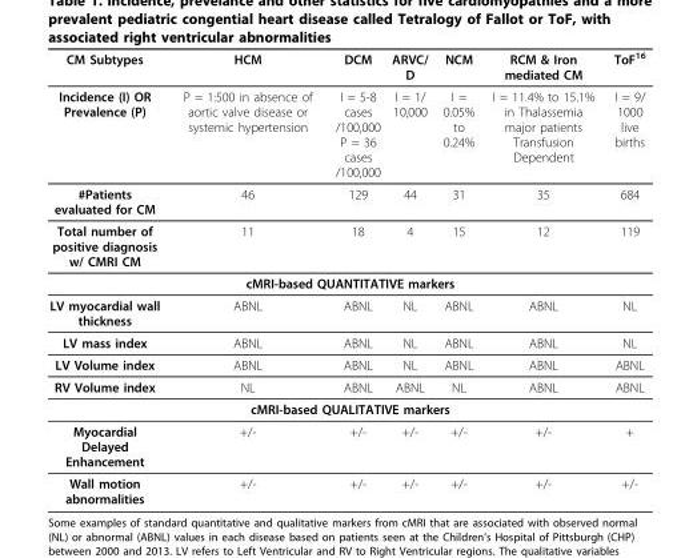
<table><thead><tr><td>CM Subtypes</td><td>HCM</td><td>DCM</td><td>ARVC/ D</td><td>NCM</td><td>RCM &amp; Iron mediated CM</td><td>ToF<sup>16</sup></td></tr></thead><tbody><tr><td>Incidence (I) OR Prevalence (P)</td><td>P = 1:500 in absence of aortic valve disease or systemic hypertension</td><td>I = 5-8 cases /100,000 P = 36 cases /100,000</td><td>I = 1/ 10,000</td><td>I = 0.05% to 0.24%</td><td>I = 11.4% to 15.1% in Thalassemia major patients Transfusion Dependent</td><td>I = 9/ 1000 live births</td></tr><tr><td>#Patients evaluated for CM</td><td>46</td><td>129</td><td>44</td><td>31</td><td>35</td><td>684</td></tr><tr><td>Total number of positive diagnosis w/ CMRI CM</td><td>11</td><td>18</td><td>4</td><td>15</td><td>12</td><td>119</td></tr><tr><td colspan="7">cMRI-based QUANTITATIVE markers</td></tr><tr><td>LV myocardial wall thickness</td><td>ABNL</td><td>ABNL</td><td>NL</td><td>ABNL</td><td>ABNL</td><td>NL</td></tr><tr><td>LV mass index</td><td>ABNL</td><td>ABNL</td><td>NL</td><td>ABNL</td><td>ABNL</td><td>NL</td></tr><tr><td>LV Volume index</td><td>ABNL</td><td>ABNL</td><td>NL</td><td>ABNL</td><td>ABNL</td><td>ABNL</td></tr><tr><td>RV Volume index</td><td>NL</td><td>ABNL</td><td>ABNL</td><td>NL</td><td>ABNL</td><td>ABNL</td></tr><tr><td colspan="7">cMRI-based QUALITATIVE markers</td></tr><tr><td>Myocardial Delayed Enhancement</td><td>+/-</td><td>+/-</td><td>+/-</td><td>+/-</td><td>+/-</td><td>+</td></tr><tr><td>Wall motion abnormalities</td><td>+/-</td><td>+/-</td><td>+/-</td><td>+/-</td><td>+/-</td><td>+/-</td></tr></tbody></table>